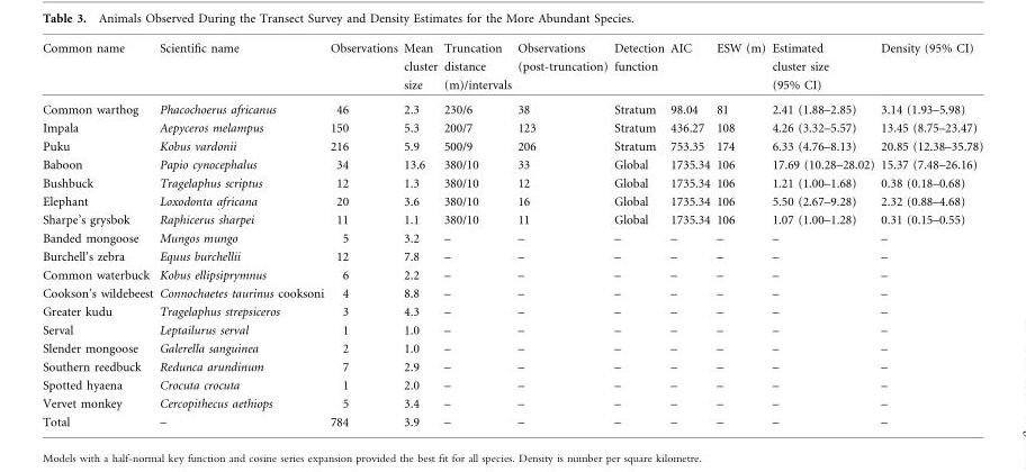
<table><thead><tr><td>Common name</td><td>Scientific name</td><td>Observations</td><td>Mean cluster size</td><td>Truncation distance (m)/intervals</td><td>Observations (post-truncation)</td><td>Detection function</td><td>AIC</td><td>ESW (m)</td><td>Estimated cluster size (95% CI)</td><td>Density (95% CI)</td></tr></thead><tbody><tr><td>Common warthog</td><td>Phacochoerus africanus</td><td>46</td><td>2.3</td><td>230/6</td><td>38</td><td>Stratum</td><td>98.04</td><td>81</td><td>2.41 (1.88–2.85)</td><td>3.14 (1.93–5.98)</td></tr><tr><td>Impala</td><td>Aepyceros melampus</td><td>150</td><td>5.3</td><td>200/7</td><td>123</td><td>Stratum</td><td>436.27</td><td>108</td><td>4.26 (3.32–5.57)</td><td>13.45 (8.75–23.47)</td></tr><tr><td>Puku</td><td>Kobus vardonii</td><td>216</td><td>5.9</td><td>500/9</td><td>206</td><td>Stratum</td><td>753.35</td><td>174</td><td>6.33 (4.76–8.13)</td><td>20.85 (12.38–35.78)</td></tr><tr><td>Baboon</td><td>Papio cynocephalus</td><td>34</td><td>13.6</td><td>380/10</td><td>33</td><td>Global</td><td>1735.34</td><td>106</td><td>17.69 (10.28–28.02)</td><td>15.37 (7.48–26.16)</td></tr><tr><td>Bushbuck</td><td>Tragelaphus scriptus</td><td>12</td><td>1.3</td><td>380/10</td><td>12</td><td>Global</td><td>1735.34</td><td>106</td><td>1.21 (1.00–1.68)</td><td>0.38 (0.18–0.68)</td></tr><tr><td>Elephant</td><td>Loxodonta africana</td><td>20</td><td>3.6</td><td>380/10</td><td>16</td><td>Global</td><td>1735.34</td><td>106</td><td>5.50 (2.67–9.28)</td><td>2.32 (0.88–4.68)</td></tr><tr><td>Sharpe’s grysbok</td><td>Raphicerus sharpei</td><td>11</td><td>1.1</td><td>380/10</td><td>11</td><td>Global</td><td>1735.34</td><td>106</td><td>1.07 (1.00–1.28)</td><td>0.31 (0.15–0.55)</td></tr><tr><td>Banded mongoose</td><td>Mungos mungo</td><td>5</td><td>3.2</td><td>–</td><td>–</td><td>–</td><td>–</td><td>–</td><td>–</td><td>–</td></tr><tr><td>Burchell’s zebra</td><td>Equus burchellii</td><td>12</td><td>7.8</td><td>–</td><td>–</td><td>–</td><td>–</td><td>–</td><td>–</td><td>–</td></tr><tr><td>Common waterbuck</td><td>Kobus ellipsiprymnus</td><td>6</td><td>2.2</td><td>–</td><td>–</td><td>–</td><td>–</td><td>–</td><td>–</td><td>–</td></tr><tr><td>Cookson’s wildebeest</td><td>Connochaetes taurinus cooksoni</td><td>4</td><td>8.8</td><td>–</td><td>–</td><td>–</td><td>–</td><td>–</td><td>–</td><td>–</td></tr><tr><td>Greater kudu</td><td>Tragelaphus strepsiceros</td><td>3</td><td>4.3</td><td>–</td><td>–</td><td>–</td><td>–</td><td>–</td><td>–</td><td>–</td></tr><tr><td>Serval</td><td>Leptailurus serval</td><td>1</td><td>1.0</td><td>–</td><td>–</td><td>–</td><td>–</td><td>–</td><td>–</td><td>–</td></tr><tr><td>Slender mongoose</td><td>Galerella sanguinea</td><td>2</td><td>1.0</td><td>–</td><td>–</td><td>–</td><td>–</td><td>–</td><td>–</td><td>–</td></tr><tr><td>Southern reedbuck</td><td>Redunca arundinum</td><td>7</td><td>2.9</td><td>–</td><td>–</td><td>–</td><td>–</td><td>–</td><td>–</td><td>–</td></tr><tr><td>Spotted hyaena</td><td>Crocuta crocuta</td><td>1</td><td>2.0</td><td>–</td><td>–</td><td>–</td><td>–</td><td>–</td><td>–</td><td>–</td></tr><tr><td>Vervet monkey</td><td>Cercopithecus aethiops</td><td>5</td><td>3.4</td><td>–</td><td>–</td><td>–</td><td>–</td><td>–</td><td>–</td><td>–</td></tr><tr><td>Total</td><td>–</td><td>784</td><td>3.9</td><td>–</td><td>–</td><td>–</td><td>–</td><td>–</td><td>–</td><td>–</td></tr></tbody></table>